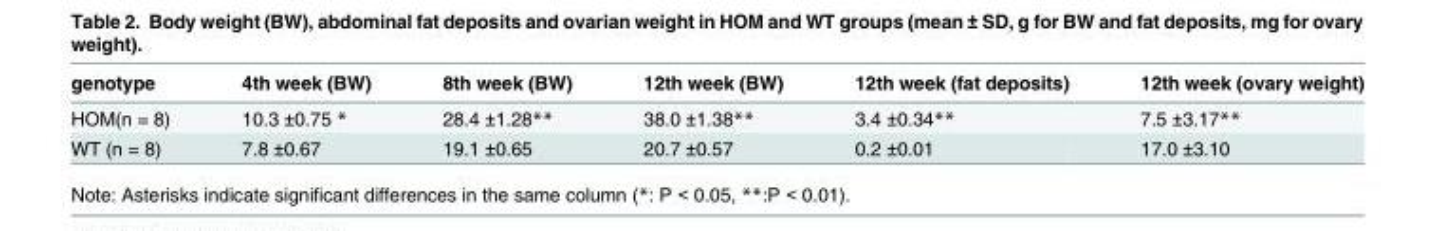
<table><thead><tr><td>genotype</td><td>4th week (BW)</td><td>8th week (BW)</td><td>12th week (BW)</td><td>12th week (fat deposits)</td><td>12th week (ovary weight)</td></tr></thead><tbody><tr><td>HOM(n = 8)</td><td>10.3 ±0.75 *</td><td>28.4 ±1.28**</td><td>38.0 ±1.38**</td><td>3.4 ±0.34**</td><td>7.5 ±3.17**</td></tr><tr><td>WT (n = 8)</td><td>7.8 ±0.67</td><td>19.1 ±0.65</td><td>20.7 ±0.57</td><td>0.2 ±0.01</td><td>17.0 ±3.10</td></tr></tbody></table>